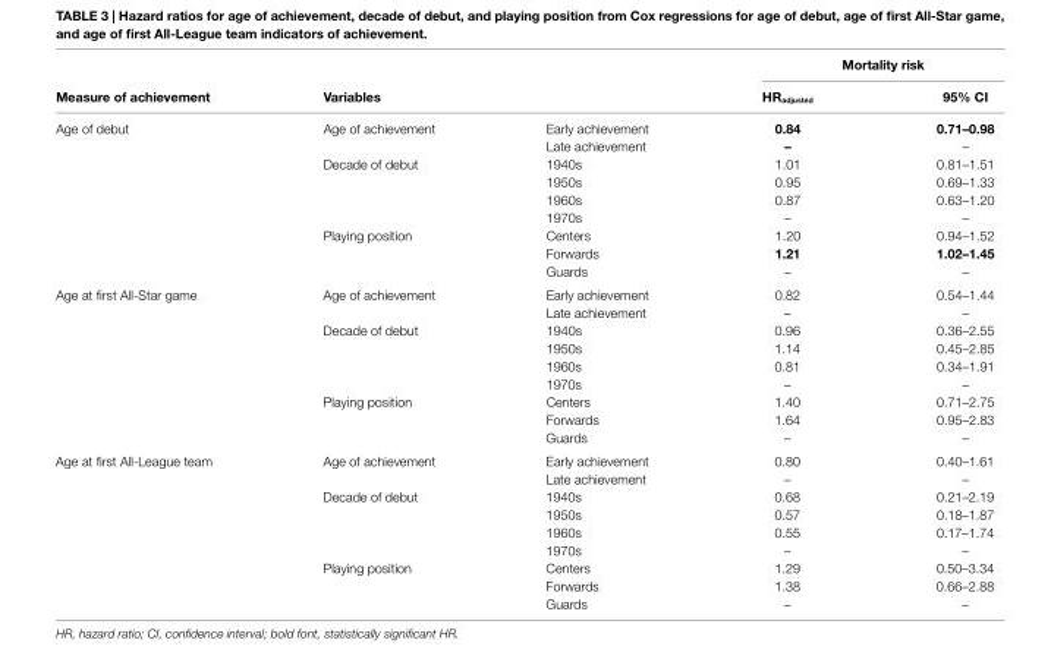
<table><thead><tr><td rowspan="2">Measure of achievement</td><td rowspan="2">Variables</td><td rowspan="2"></td><td colspan="2">Mortality risk</td></tr><tr><td>hr<sub>adjusted</sub></td><td>95% ci</td></tr></thead><tbody><tr><td rowspan="9">Age of debut</td><td rowspan="2">Age of achievement</td><td>Early achievement</td><td>0.84</td><td>0.71–0.98</td></tr><tr><td>Late achievement</td><td>–</td><td>–</td></tr><tr><td rowspan="4">Decade of debut</td><td>1940s</td><td>1.01</td><td>0.81–1.51</td></tr><tr><td>1950s</td><td>0.95</td><td>0.69–1.33</td></tr><tr><td>1960s</td><td>0.87</td><td>0.63–1.20</td></tr><tr><td>1970s</td><td>–</td><td>–</td></tr><tr><td rowspan="3">Playing position</td><td>Centers</td><td>1.20</td><td>0.94–1.52</td></tr><tr><td>Forwards</td><td>1.21</td><td>1.02–1.45</td></tr><tr><td>Guards</td><td>–</td><td>–</td></tr><tr><td rowspan="9">Age at first All-Star game</td><td rowspan="2">Age of achievement</td><td>Early achievement</td><td>0.82</td><td>0.54–1.44</td></tr><tr><td>Late achievement</td><td>–</td><td>–</td></tr><tr><td rowspan="4">Decade of debut</td><td>1940s</td><td>0.96</td><td>0.36–2.55</td></tr><tr><td>1950s</td><td>1.14</td><td>0.45–2.85</td></tr><tr><td>1960s</td><td>0.81</td><td>0.34–1.91</td></tr><tr><td>1970s</td><td>–</td><td>–</td></tr><tr><td rowspan="3">Playing position</td><td>Centers</td><td>1.40</td><td>0.71–2.75</td></tr><tr><td>Forwards</td><td>1.64</td><td>0.95–2.83</td></tr><tr><td>Guards</td><td>–</td><td>–</td></tr><tr><td rowspan="9">Age at first All-League team</td><td rowspan="2">Age of achievement</td><td>Early achievement</td><td>0.80</td><td>0.40–1.61</td></tr><tr><td>Late achievement</td><td>–</td><td>–</td></tr><tr><td rowspan="4">Decade of debut</td><td>1940s</td><td>0.68</td><td>0.21–2.19</td></tr><tr><td>1950s</td><td>0.57</td><td>0.18–1.87</td></tr><tr><td>1960s</td><td>0.55</td><td>0.17–1.74</td></tr><tr><td>1970s</td><td>–</td><td>–</td></tr><tr><td rowspan="3">Playing position</td><td>Centers</td><td>1.29</td><td>0.50–3.34</td></tr><tr><td>Forwards</td><td>1.38</td><td>0.66–2.88</td></tr><tr><td>Guards</td><td>–</td><td>–</td></tr></tbody></table>